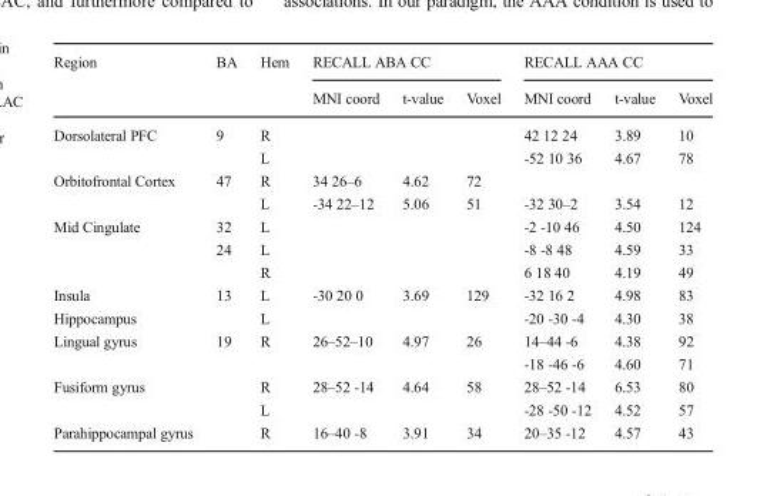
<table><thead><tr><td rowspan="2">Region</td><td rowspan="2">BA</td><td rowspan="2">Hem</td><td colspan="3">RECALL ABA CC</td><td colspan="3">RECALL AAA CC</td></tr><tr><td>MNI coord</td><td>t-value</td><td>Voxel</td><td>MNI coord</td><td>t-value</td><td>Voxel</td></tr></thead><tbody><tr><td rowspan="2">Dorsolateral PFC</td><td>9</td><td>R</td><td></td><td></td><td></td><td>42 12 24</td><td>3.89</td><td>10</td></tr><tr><td></td><td>L</td><td></td><td></td><td></td><td>-52 10 36</td><td>4.67</td><td>78</td></tr><tr><td rowspan="2">Orbitofrontal Cortex</td><td>47</td><td>R</td><td>34 26–6</td><td>4.62</td><td>72</td><td></td><td></td><td></td></tr><tr><td></td><td>L</td><td>-34 22–12</td><td>5.06</td><td>51</td><td>-32 30–2</td><td>3.54</td><td>12</td></tr><tr><td rowspan="3">Mid Cingulate</td><td>32</td><td>L</td><td></td><td></td><td></td><td>-2 -10 46</td><td>4.50</td><td>124</td></tr><tr><td>24</td><td>L</td><td></td><td></td><td></td><td>-8 -8 48</td><td>4.59</td><td>33</td></tr><tr><td></td><td>R</td><td></td><td></td><td></td><td>6 18 40</td><td>4.19</td><td>49</td></tr><tr><td>Insula</td><td>13</td><td>L</td><td>-30 20 0</td><td>3.69</td><td>129</td><td>-32 16 2</td><td>4.98</td><td>83</td></tr><tr><td>Hippocampus</td><td></td><td>L</td><td></td><td></td><td></td><td>-20 -30 -4</td><td>4.30</td><td>38</td></tr><tr><td rowspan="2">Lingual gyrus</td><td>19</td><td>R</td><td>26–52–10</td><td>4.97</td><td>26</td><td>14–44 -6</td><td>4.38</td><td>92</td></tr><tr><td></td><td></td><td></td><td></td><td></td><td>-18 -46 -6</td><td>4.60</td><td>71</td></tr><tr><td rowspan="2">Fusiform gyrus</td><td></td><td>R</td><td>28–52 -14</td><td>4.64</td><td>58</td><td>28–52 -14</td><td>6.53</td><td>80</td></tr><tr><td></td><td>L</td><td></td><td></td><td></td><td>-28 -50 -12</td><td>4.52</td><td>57</td></tr><tr><td>Parahippocampal gyrus</td><td></td><td>R</td><td>16–40 -8</td><td>3.91</td><td>34</td><td>20–35 -12</td><td>4.57</td><td>43</td></tr></tbody></table>